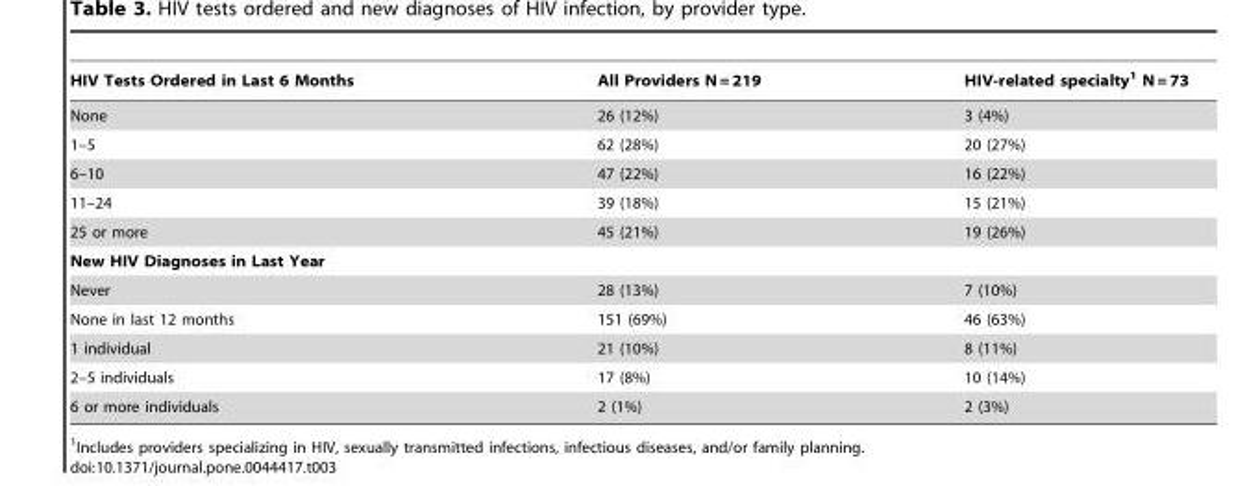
<table><thead><tr><td>HIV Tests Ordered in Last 6 Months</td><td>All Providers N = 219</td><td>HIV-related specialty<sup>1</sup> N = 73</td></tr></thead><tbody><tr><td>None</td><td>26 (12%)</td><td>3 (4%)</td></tr><tr><td>1–5</td><td>62 (28%)</td><td>20 (27%)</td></tr><tr><td>6–10</td><td>47 (22%)</td><td>16 (22%)</td></tr><tr><td>11–24</td><td>39 (18%)</td><td>15 (21%)</td></tr><tr><td>25 or more</td><td>45 (21%)</td><td>19 (26%)</td></tr><tr><td colspan="3">New HIV Diagnoses in Last Year</td></tr><tr><td>Never</td><td>28 (13%)</td><td>7 (10%)</td></tr><tr><td>None in last 12 months</td><td>151 (69%)</td><td>46 (63%)</td></tr><tr><td>1 individual</td><td>21 (10%)</td><td>8 (11%)</td></tr><tr><td>2–5 individuals</td><td>17 (8%)</td><td>10 (14%)</td></tr><tr><td>6 or more individuals</td><td>2 (1%)</td><td>2 (3%)</td></tr></tbody></table>